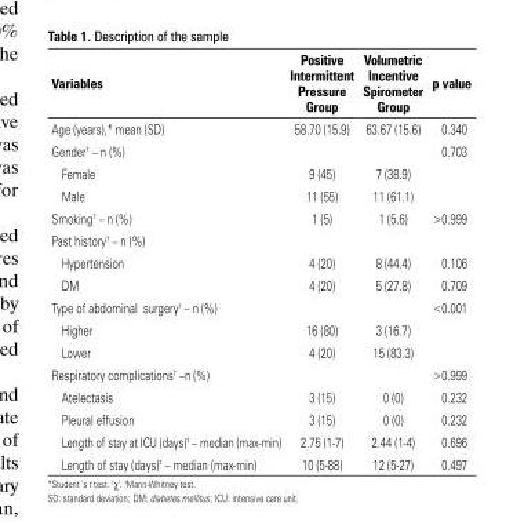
<table><thead><tr><td>Variables</td><td>Positive Intermittent Pressure Group</td><td>Volumetric Incentive Spirometer Group</td><td>p value</td></tr></thead><tbody><tr><td>Age (years),* mean (SD)</td><td>58.70 (15.9)</td><td>63.67 (15.6)</td><td>0.340</td></tr><tr><td>Gender<sup>†</sup> – n (%)</td><td></td><td></td><td>0.703</td></tr><tr><td>Female</td><td>9 (45)</td><td>7 (38.9)</td><td></td></tr><tr><td>Male</td><td>11 (55)</td><td>11 (61.1)</td><td></td></tr><tr><td>Smoking<sup>†</sup> – n (%)</td><td>1 (5)</td><td>1 (5.6)</td><td>&gt;0.999</td></tr><tr><td colspan="4">Past history<sup>†</sup> – n (%)</td></tr><tr><td>Hypertension</td><td>4 (20)</td><td>8 (44.4)</td><td>0.106</td></tr><tr><td>DM</td><td>4 (20)</td><td>5 (27.8)</td><td>0.709</td></tr><tr><td>Type of abdominal surgery<sup>†</sup> – n (%)</td><td></td><td></td><td>&lt;0.001</td></tr><tr><td>Higher</td><td>16 (80)</td><td>3 (16.7)</td><td></td></tr><tr><td>Lower</td><td>4 (20)</td><td>15 (83.3)</td><td></td></tr><tr><td>Respiratory complications<sup>†</sup> –n (%)</td><td></td><td></td><td>&gt;0.999</td></tr><tr><td>Atelectasis</td><td>3 (15)</td><td>0 (0)</td><td>0.232</td></tr><tr><td>Pleural effusion</td><td>3 (15)</td><td>0 (0)</td><td>0.232</td></tr><tr><td>Length of stay at ICU (days)<sup>‡</sup> – median (max-min)</td><td>2.75 (1-7)</td><td>2.44 (1-4)</td><td>0.696</td></tr><tr><td>Length of stay (days)<sup>‡</sup> – median (max-min)</td><td>10 (5-88)</td><td>12 (5-27)</td><td>0.497</td></tr></tbody></table>